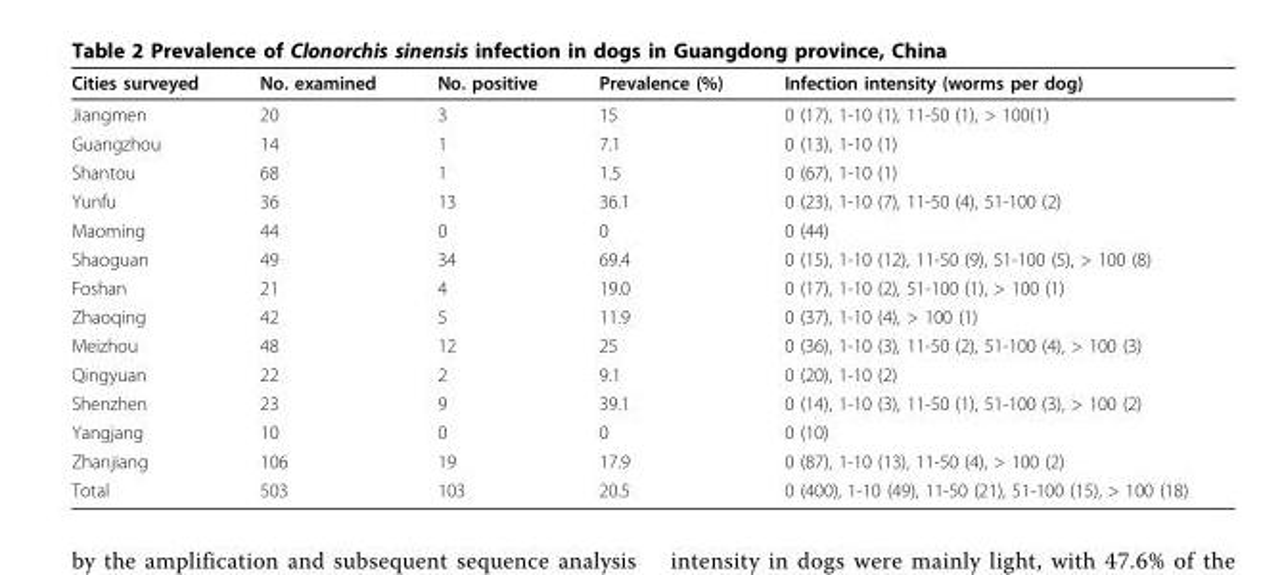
<table><thead><tr><td>Cities surveyed</td><td>No. examined</td><td>No. positive</td><td>Prevalence (%)</td><td>Infection intensity (worms per dog)</td></tr></thead><tbody><tr><td>Jiangmen</td><td>20</td><td>3</td><td>15</td><td>0 (17), 1-10 (1), 11-50 (1), &gt; 100(1)</td></tr><tr><td>Guangzhou</td><td>14</td><td>1</td><td>7.1</td><td>0 (13), 1-10 (1)</td></tr><tr><td>Shantou</td><td>68</td><td>1</td><td>1.5</td><td>0 (67), 1-10 (1)</td></tr><tr><td>Yunfu</td><td>36</td><td>13</td><td>36.1</td><td>0 (23), 1-10 (7), 11-50 (4), 51-100 (2)</td></tr><tr><td>Maoming</td><td>44</td><td>0</td><td>0</td><td>0 (44)</td></tr><tr><td>Shaoguan</td><td>49</td><td>34</td><td>69.4</td><td>0 (15), 1-10 (12), 11-50 (9), 51-100 (5), &gt; 100 (8)</td></tr><tr><td>Foshan</td><td>21</td><td>4</td><td>19.0</td><td>0 (17), 1-10 (2), 51-100 (1), &gt; 100 (1)</td></tr><tr><td>Zhaoqing</td><td>42</td><td>5</td><td>11.9</td><td>0 (37), 1-10 (4), &gt; 100 (1)</td></tr><tr><td>Meizhou</td><td>48</td><td>12</td><td>25</td><td>0 (36), 1-10 (3), 11-50 (2), 51-100 (4), &gt; 100 (3)</td></tr><tr><td>Qingyuan</td><td>22</td><td>2</td><td>9.1</td><td>0 (20), 1-10 (2)</td></tr><tr><td>Shenzhen</td><td>23</td><td>9</td><td>39.1</td><td>0 (14), 1-10 (3), 11-50 (1), 51-100 (3), &gt; 100 (2)</td></tr><tr><td>Yangjang</td><td>10</td><td>0</td><td>0</td><td>0 (10)</td></tr><tr><td>Zhanjiang</td><td>106</td><td>19</td><td>17.9</td><td>0 (87), 1-10 (13), 11-50 (4), &gt; 100 (2)</td></tr><tr><td>Total</td><td>503</td><td>103</td><td>20.5</td><td>0 (400), 1-10 (49), 11-50 (21), 51-100 (15), &gt; 100 (18)</td></tr></tbody></table>